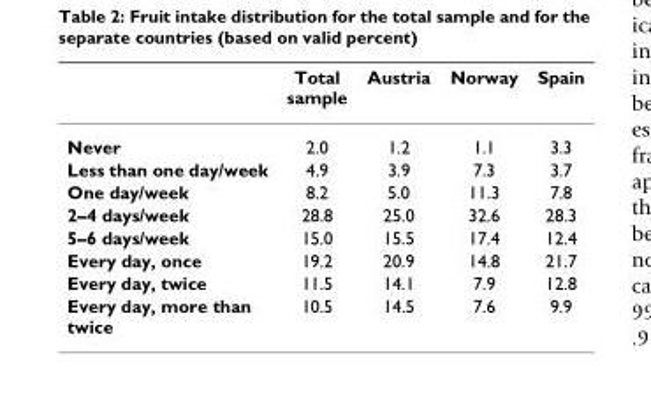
<table><thead><tr><td></td><td>Total sample</td><td>Austria</td><td>Norway</td><td>Spain</td></tr></thead><tbody><tr><td>Never</td><td>2.0</td><td>1.2</td><td>1.1</td><td>3.3</td></tr><tr><td>Less than one day/week</td><td>4.9</td><td>3.9</td><td>7.3</td><td>3.7</td></tr><tr><td>One day/week</td><td>8.2</td><td>5.0</td><td>11.3</td><td>7.8</td></tr><tr><td>2–4 days/week</td><td>28.8</td><td>25.0</td><td>32.6</td><td>28.3</td></tr><tr><td>5–6 days/week</td><td>15.0</td><td>15.5</td><td>17.4</td><td>12.4</td></tr><tr><td>Every day, once</td><td>19.2</td><td>20.9</td><td>14.8</td><td>21.7</td></tr><tr><td>Every day, twice</td><td>11.5</td><td>14.1</td><td>7.9</td><td>12.8</td></tr><tr><td>Every day, more than twice</td><td>10.5</td><td>14.5</td><td>7.6</td><td>9.9</td></tr></tbody></table>